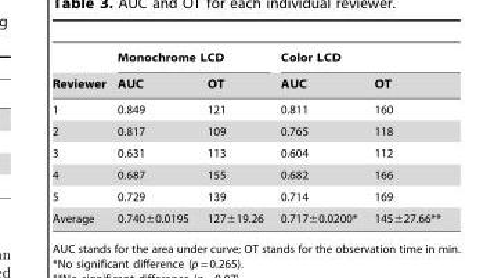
<table><thead><tr><td rowspan="2">Reviewer</td><td colspan="2">Monochrome LCD</td><td colspan="2">Color LCD</td></tr><tr><td>AUC</td><td>OT</td><td>AUC</td><td>OT</td></tr></thead><tbody><tr><td>1</td><td>0.849</td><td>121</td><td>0.811</td><td>160</td></tr><tr><td>2</td><td>0.817</td><td>109</td><td>0.765</td><td>118</td></tr><tr><td>3</td><td>0.631</td><td>113</td><td>0.604</td><td>112</td></tr><tr><td>4</td><td>0.687</td><td>155</td><td>0.682</td><td>166</td></tr><tr><td>5</td><td>0.729</td><td>139</td><td>0.714</td><td>169</td></tr><tr><td>Average</td><td>0.740±0.0195</td><td>127±19.26</td><td>0.717±0.0200*</td><td>145±27.66**</td></tr></tbody></table>